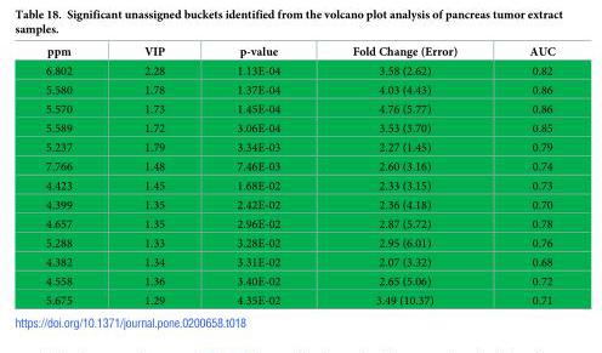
<table><thead><tr><td>ppm</td><td>VIP</td><td>p-value</td><td>Fold Change (Error)</td><td>AUC</td></tr></thead><tbody><tr><td>6.802</td><td>2.28</td><td>1.13E-04</td><td>3.58 (2.62)</td><td>0.82</td></tr><tr><td>5.580</td><td>1.78</td><td>1.37E-04</td><td>4.03 (4.43)</td><td>0.86</td></tr><tr><td>5.570</td><td>1.73</td><td>1.45E-04</td><td>4.76 (5.77)</td><td>0.86</td></tr><tr><td>5.589</td><td>1.72</td><td>3.06E-04</td><td>3.53 (3.70)</td><td>0.85</td></tr><tr><td>5.237</td><td>1.79</td><td>3.34E-03</td><td>2.27 (1.45)</td><td>0.79</td></tr><tr><td>7.766</td><td>1.48</td><td>7.46E-03</td><td>2.60 (3.16)</td><td>0.74</td></tr><tr><td>4.423</td><td>1.45</td><td>1.68E-02</td><td>2.33 (3.15)</td><td>0.73</td></tr><tr><td>4.399</td><td>1.35</td><td>2.42E-02</td><td>2.36 (4.18)</td><td>0.70</td></tr><tr><td>4.657</td><td>1.35</td><td>2.96E-02</td><td>2.87 (5.72)</td><td>0.78</td></tr><tr><td>5.288</td><td>1.33</td><td>3.28E-02</td><td>2.95 (6.01)</td><td>0.76</td></tr><tr><td>4.382</td><td>1.34</td><td>3.31E-02</td><td>2.07 (3.32)</td><td>0.68</td></tr><tr><td>4.558</td><td>1.36</td><td>3.40E-02</td><td>2.65 (5.06)</td><td>0.72</td></tr><tr><td>5.675</td><td>1.29</td><td>4.35E-02</td><td>3.49 (10.37)</td><td>0.71</td></tr></tbody></table>